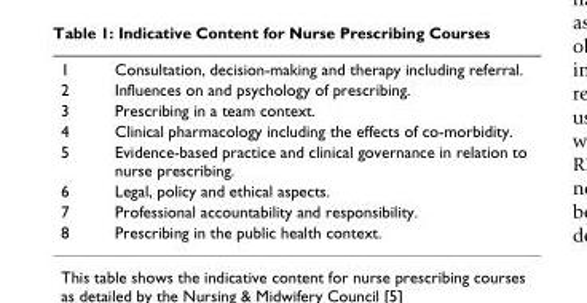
<table><tbody><tr><td>1</td><td>Consultation, decision-making and therapy including referral.</td></tr><tr><td>2</td><td>Influences on and psychology of prescribing.</td></tr><tr><td>3</td><td>Prescribing in a team context.</td></tr><tr><td>4</td><td>Clinical pharmacology including the effects of co-morbidity.</td></tr><tr><td>5</td><td>Evidence-based practice and clinical governance in relation to nurse prescribing.</td></tr><tr><td>6</td><td>Legal, policy and ethical aspects.</td></tr><tr><td>7</td><td>Professional accountability and responsibility.</td></tr><tr><td>8</td><td>Prescribing in the public health context.</td></tr></tbody></table>